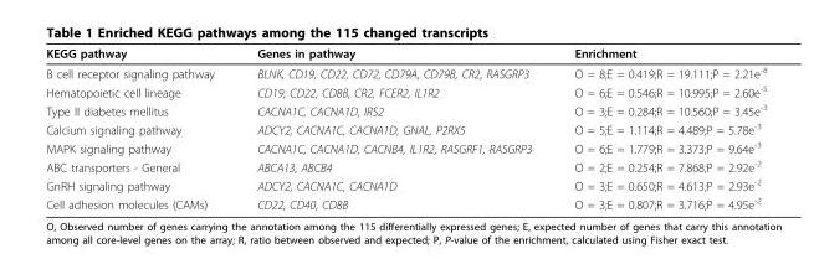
<table><thead><tr><td>KEGG pathway</td><td>Genes in pathway</td><td>Enrichment</td></tr></thead><tbody><tr><td>B cell receptor signaling pathway</td><td>BLNK, CD19, CD22, CD72, CD79A, CD79B, CR2, RASGRP3</td><td>O = 8;E = 0.419;R = 19.111;P = 2.21e<sup>-8</sup></td></tr><tr><td>Hematopoietic cell lineage</td><td>CD19, CD22, CD8B, CR2, FCER2, IL1R2</td><td>O = 6;E = 0.546;R = 10.995;P = 2.60e<sup>-5</sup></td></tr><tr><td>Type II diabetes mellitus</td><td>CACNA1C, CACNA1D, IRS2</td><td>O = 3;E = 0.284;R = 10.560;P = 3.45e<sup>-3</sup></td></tr><tr><td>Calcium signaling pathway</td><td>ADCY2, CACNA1C, CACNA1D, GNAL, P2RX5</td><td>O = 5;E = 1.114;R = 4.489;P = 5.78e<sup>-3</sup></td></tr><tr><td>MAPK signaling pathway</td><td>CACNA1C, CACNA1D, CACNB4, IL1R2, RASGRF1, RASGRP3</td><td>O = 6;E = 1.779;R = 3.373;P = 9.64e<sup>-3</sup></td></tr><tr><td>ABC transporters - General</td><td>ABCA13, ABCB4</td><td>O = 2;E = 0.254;R = 7.868;P = 2.92e<sup>-2</sup></td></tr><tr><td>GnRH signaling pathway</td><td>ADCY2, CACNA1C, CACNA1D</td><td>O = 3;E = 0.650;R = 4.613;P = 2.93e<sup>-2</sup></td></tr><tr><td>Cell adhesion molecules (CAMs)</td><td>CD22, CD40, CD8B</td><td>O = 3;E = 0.807;R = 3.716;P = 4.95e<sup>-2</sup></td></tr></tbody></table>